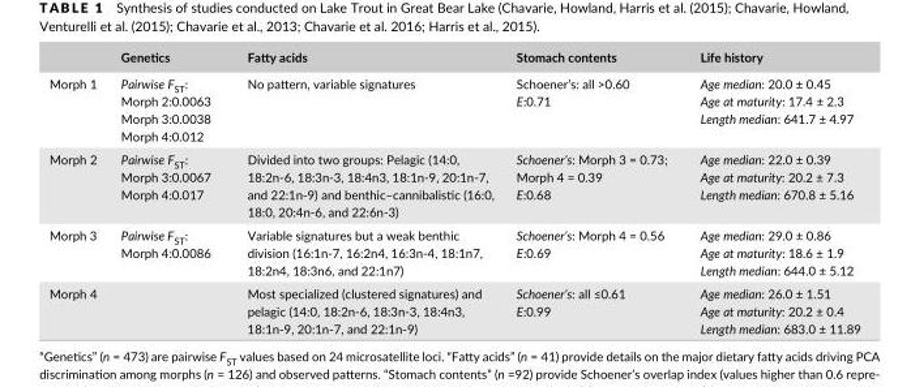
<table><thead><tr><td></td><td>Genetics</td><td>Fatty acids</td><td>Stomach contents</td><td>Life history</td></tr></thead><tbody><tr><td>Morph 1</td><td>Pairwise F<sub>ST</sub>: Morph 2:0.0063 Morph 3:0.0038 Morph 4:0.012</td><td>No pattern, variable signatures</td><td>Schoener’s: all &gt;0.60 E:0.71</td><td>Age median: 20.0 ± 0.45 Age at maturity: 17.4 ± 2.3 Length median: 641.7 ± 4.97</td></tr><tr><td>Morph 2</td><td>Pairwise F<sub>ST</sub>: Morph 3:0.0067 Morph 4:0.017</td><td>Divided into two groups: Pelagic (14:0, 18:2n- 6, 18:3n- 3, 18:4n3, 18:1n- 9, 20:1n- 7, and 22:1n- 9) and benthic–cannibalistic (16:0, 18:0, 20:4n- 6, and 22:6n- 3)</td><td>Schoener’s: Morph 3 = 0.73; Morph 4 = 0.39 E:0.68</td><td>Age median: 22.0 ± 0.39 Age at maturity: 20.2 ± 7.3 Length median: 670.8 ± 5.16</td></tr><tr><td>Morph 3</td><td>Pairwise F<sub>ST</sub>: Morph 4:0.0086</td><td>Variable signatures but a weak benthic division (16:1n- 7, 16:2n4, 16:3n- 4, 18:1n7, 18:2n4, 18:3n6, and 22:1n7)</td><td>Schoener’s: Morph 4 = 0.56 E:0.69</td><td>Age median: 29.0 ± 0.86 Age at maturity: 18.6 ± 1.9 Length median: 644.0 ± 5.12</td></tr><tr><td>Morph 4</td><td></td><td>Most specialized (clustered signatures) and pelagic (14:0, 18:2n- 6, 18:3n- 3, 18:4n3, 18:1n- 9, 20:1n- 7, and 22:1n- 9)</td><td>Schoener’s: all ≤0.61 E:0.99</td><td>Age median: 26.0 ± 1.51 Age at maturity: 20.2 ± 0.4 Length median: 683.0 ± 11.89</td></tr></tbody></table>